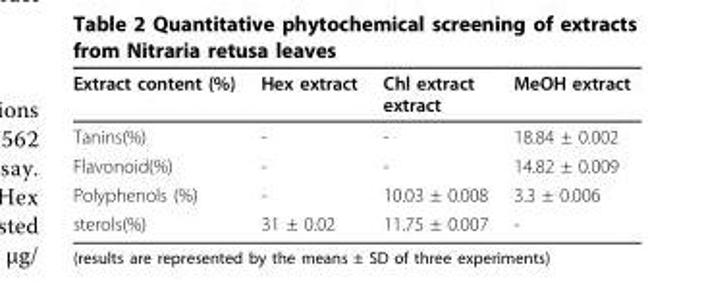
<table><thead><tr><td>Extract content (%)</td><td>Hex extract</td><td>Chl extract extract</td><td>MeOH extract</td></tr></thead><tbody><tr><td>Tanins(%)</td><td>-</td><td>-</td><td>18.84 ± 0.002</td></tr><tr><td>Flavonoid(%)</td><td>-</td><td>-</td><td>14.82 ± 0.009</td></tr><tr><td>Polyphenols (%)</td><td>-</td><td>10.03 ± 0.008</td><td>3.3 ± 0.006</td></tr><tr><td>sterols(%)</td><td>31 ± 0.02</td><td>11.75 ± 0.007</td><td>-</td></tr></tbody></table>